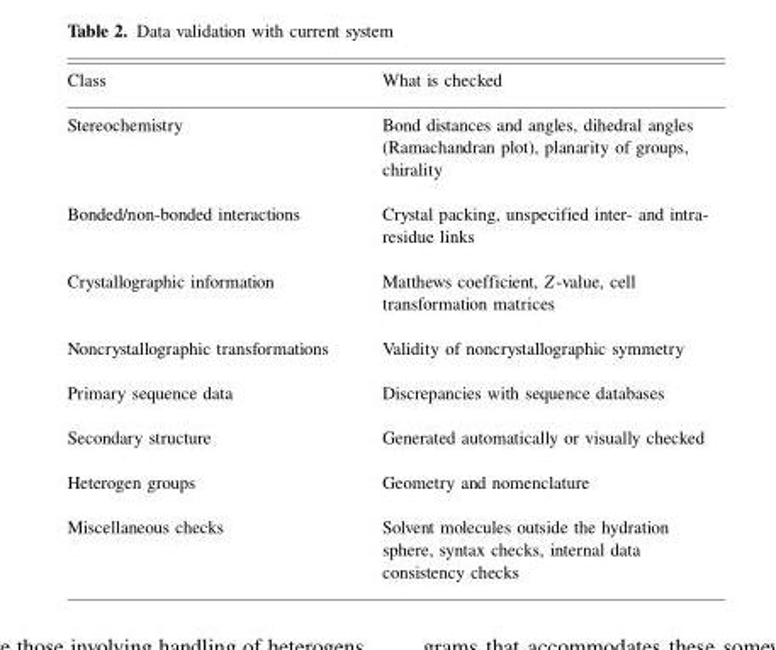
<table><thead><tr><td>Class</td><td>What is checked</td></tr></thead><tbody><tr><td>Stereochemistry</td><td>Bond distances and angles, dihedral angles (Ramachandran plot), planarity of groups, chirality</td></tr><tr><td>Bonded/non-bonded interactions</td><td>Crystal packing, unspecified inter- and intra- residue links</td></tr><tr><td>Crystallographic information</td><td>Matthews coefficient, Z-value, cell transformation matrices</td></tr><tr><td>Noncrystallographic transformations</td><td>Validity of noncrystallographic symmetry</td></tr><tr><td>Primary sequence data</td><td>Discrepancies with sequence databases</td></tr><tr><td>Secondary structure</td><td>Generated automatically or visually checked</td></tr><tr><td>Heterogen groups</td><td>Geometry and nomenclature</td></tr><tr><td>Miscellaneous checks</td><td>Solvent molecules outside the hydration sphere, syntax checks, internal data consistency checks</td></tr></tbody></table>